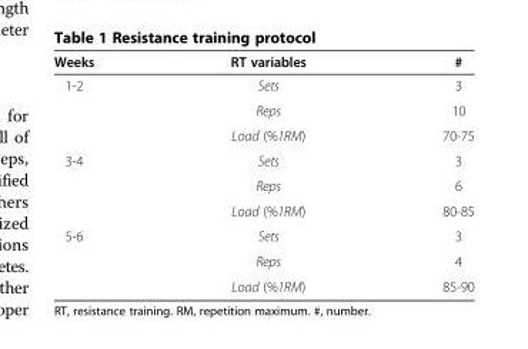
<table><thead><tr><td>Weeks</td><td>RT variables</td><td>#</td></tr></thead><tbody><tr><td rowspan="3">1-2</td><td>Sets</td><td>3</td></tr><tr><td>Reps</td><td>10</td></tr><tr><td>Load (%1RM)</td><td>70-75</td></tr><tr><td rowspan="3">3-4</td><td>Sets</td><td>3</td></tr><tr><td>Reps</td><td>6</td></tr><tr><td>Load (%1RM)</td><td>80-85</td></tr><tr><td rowspan="3">5-6</td><td>Sets</td><td>3</td></tr><tr><td>Reps</td><td>4</td></tr><tr><td>Load (%1RM)</td><td>85-90</td></tr></tbody></table>